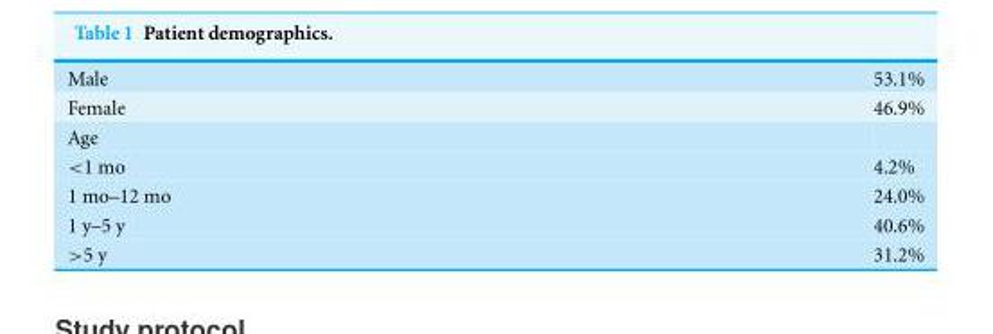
<table><tbody><tr><td>Male</td><td>53.1%</td></tr><tr><td>Female</td><td>46.9%</td></tr><tr><td colspan="2">Age</td></tr><tr><td>&lt;1 mo</td><td>4.2%</td></tr><tr><td>1 mo–12 mo</td><td>24.0%</td></tr><tr><td>1 y–5 y</td><td>40.6%</td></tr><tr><td>&gt;5 y</td><td>31.2%</td></tr></tbody></table>